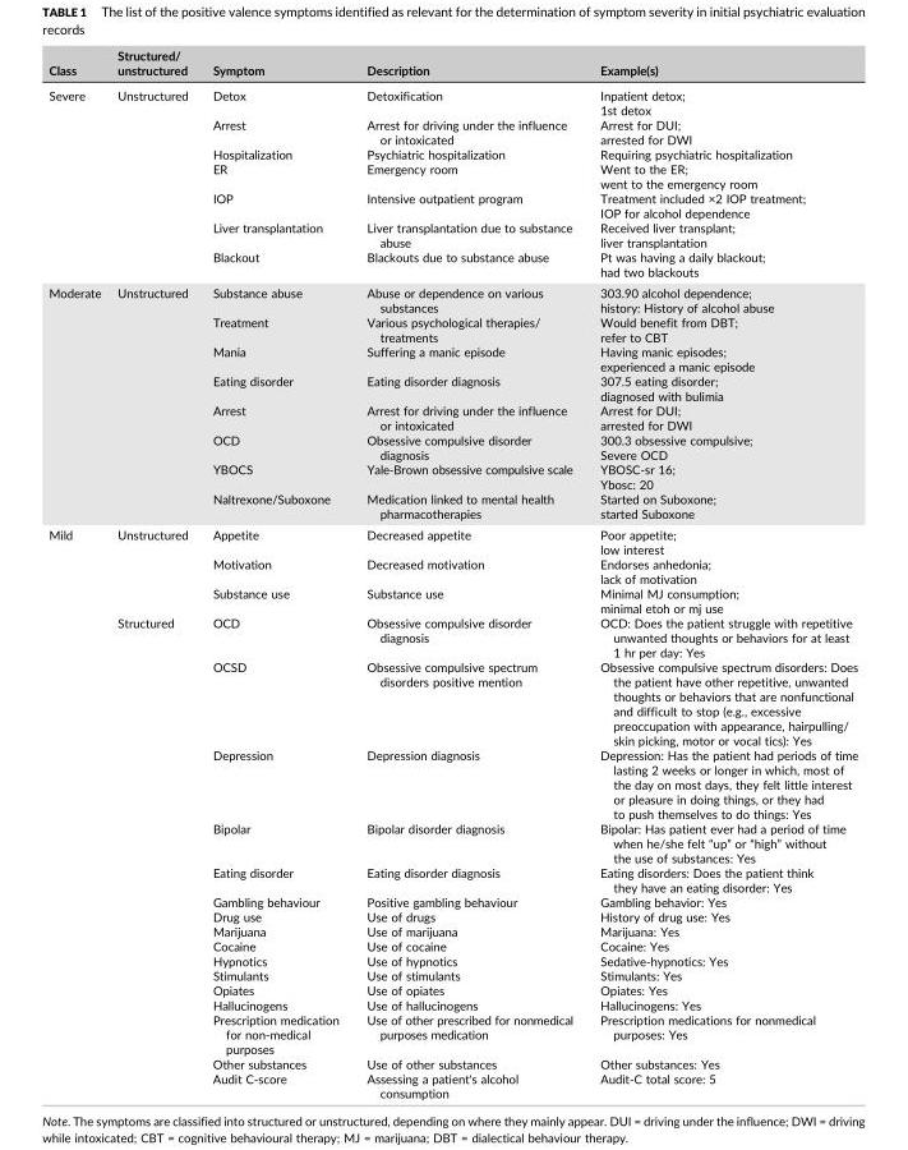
<table><thead><tr><td>Class</td><td>Structured/ unstructured</td><td>Symptom</td><td>Description</td><td>Example(s)</td></tr></thead><tbody><tr><td rowspan="7">Severe</td><td rowspan="7">Unstructured</td><td>Detox</td><td>Detoxification</td><td>Inpatient detox; 1st detox</td></tr><tr><td>Arrest</td><td>Arrest for driving under the influence or intoxicated</td><td>Arrest for DUI; arrested for DWI</td></tr><tr><td>Hospitalization</td><td>Psychiatric hospitalization</td><td>Requiring psychiatric hospitalization</td></tr><tr><td>ER</td><td>Emergency room</td><td>Went to the ER; went to the emergency room</td></tr><tr><td>IOP</td><td>Intensive outpatient program</td><td>Treatment included ×2 IOP treatment; IOP for alcohol dependence</td></tr><tr><td>Liver transplantation</td><td>Liver transplantation due to substance abuse</td><td>Received liver transplant; liver transplantation</td></tr><tr><td>Blackout</td><td>Blackouts due to substance abuse</td><td>Pt was having a daily blackout; had two blackouts</td></tr><tr><td rowspan="8">Moderate</td><td rowspan="8">Unstructured</td><td>Substance abuse</td><td>Abuse or dependence on various substances</td><td>303.90 alcohol dependence; history: History of alcohol abuse</td></tr><tr><td>Treatment</td><td>Various psychological therapies/ treatments</td><td>Would benefit from DBT; refer to CBT</td></tr><tr><td>Mania</td><td>Suffering a manic episode</td><td>Having manic episodes; experienced a manic episode</td></tr><tr><td>Eating disorder</td><td>Eating disorder diagnosis</td><td>307.5 eating disorder; diagnosed with bulimia</td></tr><tr><td>Arrest</td><td>Arrest for driving under the influence or intoxicated</td><td>Arrest for DUI; arrested for DWI</td></tr><tr><td>OCD</td><td>Obsessive compulsive disorder diagnosis</td><td>300.3 obsessive compulsive; Severe OCD</td></tr><tr><td>YBOCS</td><td>Yale‐Brown obsessive compulsive scale</td><td>YBOSC‐sr 16; Ybosc: 20</td></tr><tr><td>Naltrexone/Suboxone</td><td>Medication linked to mental health pharmacotherapies</td><td>Started on Suboxone; started Suboxone</td></tr><tr><td rowspan="19">Mild</td><td rowspan="3">Unstructured</td><td>Appetite</td><td>Decreased appetite</td><td>Poor appetite; low interest</td></tr><tr><td>Motivation</td><td>Decreased motivation</td><td>Endorses anhedonia; lack of motivation</td></tr><tr><td>Substance use</td><td>Substance use</td><td>Minimal MJ consumption; minimal etoh or mj use</td></tr><tr><td rowspan="16">Structured</td><td>OCD</td><td>Obsessive compulsive disorder diagnosis</td><td>OCD: Does the patient struggle with repetitive unwanted thoughts or behaviors for at least 1 hr per day: Yes</td></tr><tr><td>OCSD</td><td>Obsessive compulsive spectrum disorders positive mention</td><td>Obsessive compulsive spectrum disorders: Does the patient have other repetitive, unwanted thoughts or behaviors that are nonfunctional and difficult to stop (e.g., excessive preoccupation with appearance, hairpulling/ skin picking, motor or vocal tics): Yes</td></tr><tr><td>Depression</td><td>Depression diagnosis</td><td>Depression: Has the patient had periods of time lasting 2 weeks or longer in which, most of the day on most days, they felt little interest or pleasure in doing things, or they had to push themselves to do things: Yes</td></tr><tr><td>Bipolar</td><td>Bipolar disorder diagnosis</td><td>Bipolar: Has patient ever had a period of time when he/she felt “up” or “high” without the use of substances: Yes</td></tr><tr><td>Eating disorder</td><td>Eating disorder diagnosis</td><td>Eating disorders: Does the patient think they have an eating disorder: Yes</td></tr><tr><td>Gambling behaviour</td><td>Positive gambling behaviour</td><td>Gambling behavior: Yes</td></tr><tr><td>Drug use</td><td>Use of drugs</td><td>History of drug use: Yes</td></tr><tr><td>Marijuana</td><td>Use of marijuana</td><td>Marijuana: Yes</td></tr><tr><td>Cocaine</td><td>Use of cocaine</td><td>Cocaine: Yes</td></tr><tr><td>Hypnotics</td><td>Use of hypnotics</td><td>Sedative‐hypnotics: Yes</td></tr><tr><td>Stimulants</td><td>Use of stimulants</td><td>Stimulants: Yes</td></tr><tr><td>Opiates</td><td>Use of opiates</td><td>Opiates: Yes</td></tr><tr><td>Hallucinogens</td><td>Use of hallucinogens</td><td>Hallucinogens: Yes</td></tr><tr><td>Prescription medication for non‐medical purposes</td><td>Use of other prescribed for nonmedical purposes medication</td><td>Prescription medications for nonmedical purposes: Yes</td></tr><tr><td>Other substances</td><td>Use of other substances</td><td>Other substances: Yes</td></tr><tr><td>Audit C‐score</td><td>Assessing a patient&#x27;s alcohol consumption</td><td>Audit‐C total score: 5</td></tr></tbody></table>